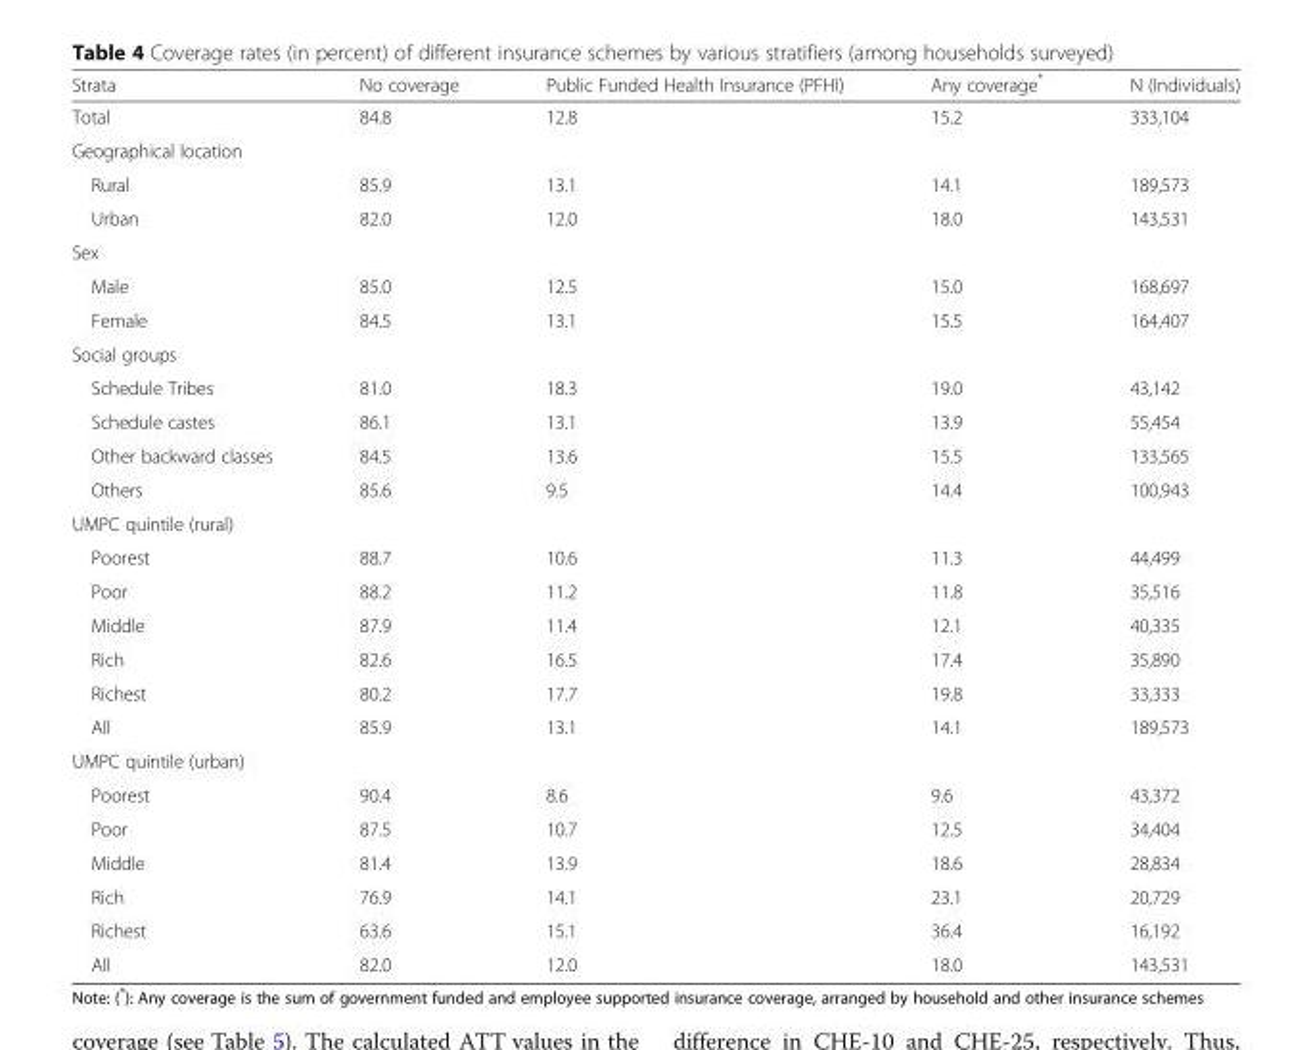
<table><thead><tr><td>Strata</td><td>No coverage</td><td>Public Funded Health Insurance (PFHI)</td><td>Any coverage*</td><td>N (Individuals)</td></tr></thead><tbody><tr><td>Total</td><td>84.8</td><td>12.8</td><td>15.2</td><td>333,104</td></tr><tr><td colspan="5">Geographical location</td></tr><tr><td>Rural</td><td>85.9</td><td>13.1</td><td>14.1</td><td>189,573</td></tr><tr><td>Urban</td><td>82.0</td><td>12.0</td><td>18.0</td><td>143,531</td></tr><tr><td colspan="5">Sex</td></tr><tr><td>Male</td><td>85.0</td><td>12.5</td><td>15.0</td><td>168,697</td></tr><tr><td>Female</td><td>84.5</td><td>13.1</td><td>15.5</td><td>164,407</td></tr><tr><td colspan="5">Social groups</td></tr><tr><td>Schedule Tribes</td><td>81.0</td><td>18.3</td><td>19.0</td><td>43,142</td></tr><tr><td>Schedule castes</td><td>86.1</td><td>13.1</td><td>13.9</td><td>55,454</td></tr><tr><td>Other backward classes</td><td>84.5</td><td>13.6</td><td>15.5</td><td>133,565</td></tr><tr><td>Others</td><td>85.6</td><td>9.5</td><td>14.4</td><td>100,943</td></tr><tr><td colspan="5">UMPC quintile (rural)</td></tr><tr><td>Poorest</td><td>88.7</td><td>10.6</td><td>11.3</td><td>44,499</td></tr><tr><td>Poor</td><td>88.2</td><td>11.2</td><td>11.8</td><td>35,516</td></tr><tr><td>Middle</td><td>87.9</td><td>11.4</td><td>12.1</td><td>40,335</td></tr><tr><td>Rich</td><td>82.6</td><td>16.5</td><td>17.4</td><td>35,890</td></tr><tr><td>Richest</td><td>80.2</td><td>17.7</td><td>19.8</td><td>33,333</td></tr><tr><td>All</td><td>85.9</td><td>13.1</td><td>14.1</td><td>189,573</td></tr><tr><td colspan="5">UMPC quintile (urban)</td></tr><tr><td>Poorest</td><td>90.4</td><td>8.6</td><td>9.6</td><td>43,372</td></tr><tr><td>Poor</td><td>87.5</td><td>10.7</td><td>12.5</td><td>34,404</td></tr><tr><td>Middle</td><td>81.4</td><td>13.9</td><td>18.6</td><td>28,834</td></tr><tr><td>Rich</td><td>76.9</td><td>14.1</td><td>23.1</td><td>20,729</td></tr><tr><td>Richest</td><td>63.6</td><td>15.1</td><td>36.4</td><td>16,192</td></tr><tr><td>All</td><td>82.0</td><td>12.0</td><td>18.0</td><td>143,531</td></tr></tbody></table>